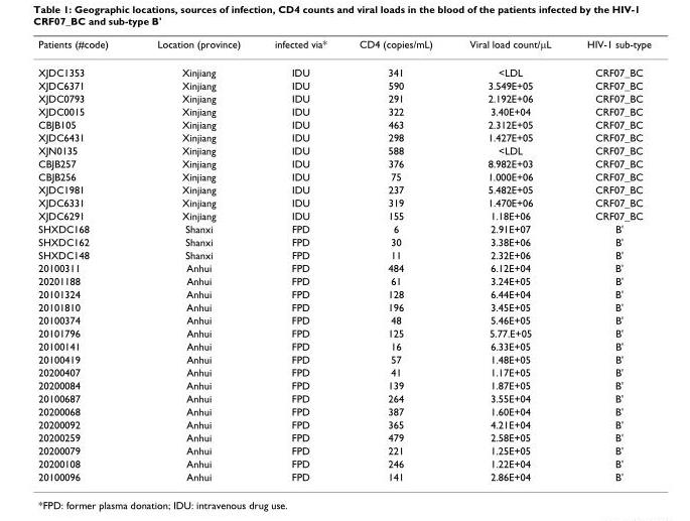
<table><thead><tr><td>Patients (#code)</td><td>Location (province)</td><td>infected via*</td><td>CD4 (copies/mL)</td><td>Viral load count/μL</td><td>HIV-1 sub-type</td></tr></thead><tbody><tr><td>XJDC1353</td><td>Xinjiang</td><td>IDU</td><td>341</td><td>&lt;LDL</td><td>CRF07_BC</td></tr><tr><td>XJDC6371</td><td>Xinjiang</td><td>IDU</td><td>590</td><td>3.549E+05</td><td>CRF07_BC</td></tr><tr><td>XJDC0793</td><td>Xinjiang</td><td>IDU</td><td>291</td><td>2.192E+06</td><td>CRF07_BC</td></tr><tr><td>XJDC0015</td><td>Xinjiang</td><td>IDU</td><td>322</td><td>3.40E+04</td><td>CRF07_BC</td></tr><tr><td>CBJB105</td><td>Xinjiang</td><td>IDU</td><td>463</td><td>2.312E+05</td><td>CRF07_BC</td></tr><tr><td>XJDC6431</td><td>Xinjiang</td><td>IDU</td><td>298</td><td>1.427E+05</td><td>CRF07_BC</td></tr><tr><td>XJN0135</td><td>Xinjiang</td><td>IDU</td><td>588</td><td>&lt;LDL</td><td>CRF07_BC</td></tr><tr><td>CBJB257</td><td>Xinjiang</td><td>IDU</td><td>376</td><td>8.982E+03</td><td>CRF07_BC</td></tr><tr><td>CBJB256</td><td>Xinjiang</td><td>IDU</td><td>75</td><td>1.000E+06</td><td>CRF07_BC</td></tr><tr><td>XJDC1981</td><td>Xinjiang</td><td>IDU</td><td>237</td><td>5.482E+05</td><td>CRF07_BC</td></tr><tr><td>XJDC6331</td><td>Xinjiang</td><td>IDU</td><td>319</td><td>1.470E+06</td><td>CRF07_BC</td></tr><tr><td>XJDC6291</td><td>Xinjiang</td><td>IDU</td><td>155</td><td>1.18E+06</td><td>CRF07_BC</td></tr><tr><td>SHXDC168</td><td>Shanxi</td><td>FPD</td><td>6</td><td>2.91E+07</td><td>B&#x27;</td></tr><tr><td>SHXDC162</td><td>Shanxi</td><td>FPD</td><td>30</td><td>3.38E+06</td><td>B&#x27;</td></tr><tr><td>SHXDC148</td><td>Shanxi</td><td>FPD</td><td>11</td><td>2.32E+06</td><td>B&#x27;</td></tr><tr><td>20100311</td><td>Anhui</td><td>FPD</td><td>484</td><td>6.12E+04</td><td>B&#x27;</td></tr><tr><td>20201188</td><td>Anhui</td><td>FPD</td><td>61</td><td>3.24E+05</td><td>B&#x27;</td></tr><tr><td>20101324</td><td>Anhui</td><td>FPD</td><td>128</td><td>6.44E+04</td><td>B&#x27;</td></tr><tr><td>20101810</td><td>Anhui</td><td>FPD</td><td>196</td><td>3.45E+05</td><td>B&#x27;</td></tr><tr><td>20100374</td><td>Anhui</td><td>FPD</td><td>48</td><td>5.46E+05</td><td>B&#x27;</td></tr><tr><td>20101796</td><td>Anhui</td><td>FPD</td><td>125</td><td>5.77.E+05</td><td>B&#x27;</td></tr><tr><td>20100141</td><td>Anhui</td><td>FPD</td><td>16</td><td>6.33E+05</td><td>B&#x27;</td></tr><tr><td>20100419</td><td>Anhui</td><td>FPD</td><td>57</td><td>1.48E+05</td><td>B&#x27;</td></tr><tr><td>20200407</td><td>Anhui</td><td>FPD</td><td>41</td><td>1.17E+05</td><td>B&#x27;</td></tr><tr><td>20200084</td><td>Anhui</td><td>FPD</td><td>139</td><td>1.87E+05</td><td>B&#x27;</td></tr><tr><td>20100687</td><td>Anhui</td><td>FPD</td><td>264</td><td>3.55E+04</td><td>B&#x27;</td></tr><tr><td>20200068</td><td>Anhui</td><td>FPD</td><td>387</td><td>1.60E+04</td><td>B&#x27;</td></tr><tr><td>20200092</td><td>Anhui</td><td>FPD</td><td>365</td><td>4.21E+04</td><td>B&#x27;</td></tr><tr><td>20200259</td><td>Anhui</td><td>FPD</td><td>479</td><td>2.58E+05</td><td>B&#x27;</td></tr><tr><td>20200079</td><td>Anhui</td><td>FPD</td><td>221</td><td>1.25E+05</td><td>B&#x27;</td></tr><tr><td>20200108</td><td>Anhui</td><td>FPD</td><td>246</td><td>1.22E+04</td><td>B&#x27;</td></tr><tr><td>20100096</td><td>Anhui</td><td>FPD</td><td>141</td><td>2.86E+04</td><td>B&#x27;</td></tr></tbody></table>